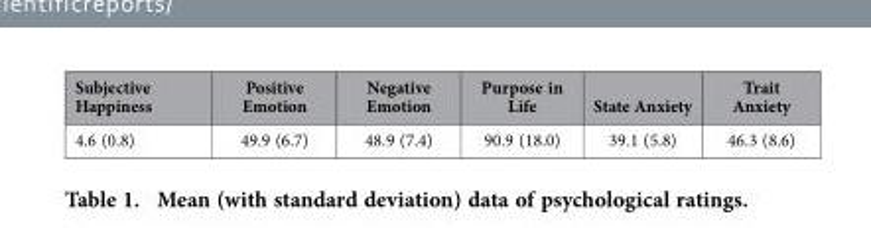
<table><thead><tr><td>Subjective Happiness</td><td>Positive Emotion</td><td>Negative Emotion</td><td>Purpose in Life</td><td>State Anxiety</td><td>Trait Anxiety</td></tr></thead><tbody><tr><td>4.6 (0.8)</td><td>49.9 (6.7)</td><td>48.9 (7.4)</td><td>90.9 (18.0)</td><td>39.1 (5.8)</td><td>46.3 (8.6)</td></tr></tbody></table>